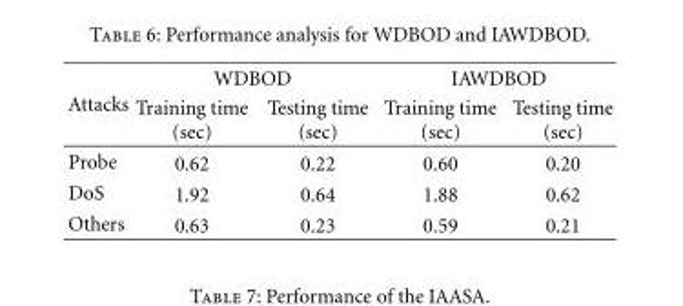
<table><thead><tr><td rowspan="2">Attacks</td><td colspan="2">WDBOD</td><td colspan="2">IAWDBOD</td></tr><tr><td>Training time (sec)</td><td>Testing time (sec)</td><td>Training time (sec)</td><td>Testing time (sec)</td></tr></thead><tbody><tr><td>Probe</td><td>0.62</td><td>0.22</td><td>0.60</td><td>0.20</td></tr><tr><td>DoS</td><td>1.92</td><td>0.64</td><td>1.88</td><td>0.62</td></tr><tr><td>Others</td><td>0.63</td><td>0.23</td><td>0.59</td><td>0.21</td></tr></tbody></table>